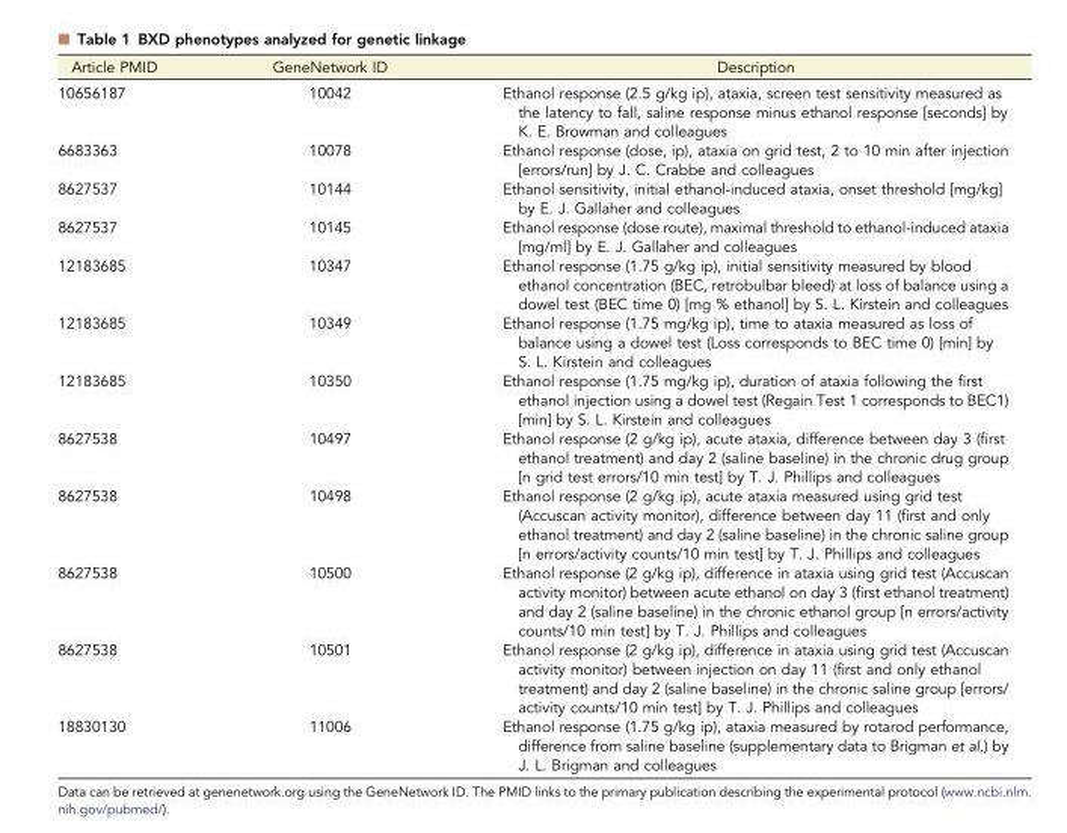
<table><thead><tr><td>Article PMID</td><td>GeneNetwork ID</td><td>Description</td></tr></thead><tbody><tr><td>10656187</td><td>10042</td><td>Ethanol response (2.5 g/kg ip), ataxia, screen test sensitivity measured as the latency to fall, saline response minus ethanol response [seconds] by K. E. Browman and colleagues</td></tr><tr><td>6683363</td><td>10078</td><td>Ethanol response (dose, ip), ataxia on grid test, 2 to 10 min after injection [errors/run] by J. C. Crabbe and colleagues</td></tr><tr><td>8627537</td><td>10144</td><td>Ethanol sensitivity, initial ethanol-induced ataxia, onset threshold [mg/kg] by E. J. Gallaher and colleagues</td></tr><tr><td>8627537</td><td>10145</td><td>Ethanol response (dose route), maximal threshold to ethanol-induced ataxia [mg/ml] by E. J. Gallaher and colleagues</td></tr><tr><td>12183685</td><td>10347</td><td>Ethanol response (1.75 g/kg ip), initial sensitivity measured by blood ethanol concentration (BEC, retrobulbar bleed) at loss of balance using a dowel test (BEC time 0) [mg % ethanol] by S. L. Kirstein and colleagues</td></tr><tr><td>12183685</td><td>10349</td><td>Ethanol response (1.75 mg/kg ip), time to ataxia measured as loss of balance using a dowel test (Loss corresponds to BEC time 0) [min] by S. L. Kirstein and colleagues</td></tr><tr><td>12183685</td><td>10350</td><td>Ethanol response (1.75 mg/kg ip), duration of ataxia following the first ethanol injection using a dowel test (Regain Test 1 corresponds to BEC1) [min] by S. L. Kirstein and colleagues</td></tr><tr><td>8627538</td><td>10497</td><td>Ethanol response (2 g/kg ip), acute ataxia, difference between day 3 (first ethanol treatment) and day 2 (saline baseline) in the chronic drug group [n grid test errors/10 min test] by T. J. Phillips and colleagues</td></tr><tr><td>8627538</td><td>10498</td><td>Ethanol response (2 g/kg ip), acute ataxia measured using grid test (Accuscan activity monitor), difference between day 11 (first and only ethanol treatment) and day 2 (saline baseline) in the chronic saline group [n errors/activity counts/10 min test] by T. J. Phillips and colleagues</td></tr><tr><td>8627538</td><td>10500</td><td>Ethanol response (2 g/kg ip), difference in ataxia using grid test (Accuscan activity monitor) between acute ethanol on day 3 (first ethanol treatment) and day 2 (saline baseline) in the chronic ethanol group [n errors/activity counts/10 min test] by T. J. Phillips and colleagues</td></tr><tr><td>8627538</td><td>10501</td><td>Ethanol response (2 g/kg ip), difference in ataxia using grid test (Accuscan activity monitor) between injection on day 11 (first and only ethanol treatment) and day 2 (saline baseline) in the chronic saline group [errors/ activity counts/10 min test] by T. J. Phillips and colleagues</td></tr><tr><td>18830130</td><td>11006</td><td>Ethanol response (1.75 g/kg ip), ataxia measured by rotarod performance, difference from saline baseline (supplementary data to Brigman et al.) by J. L. Brigman and colleagues</td></tr></tbody></table>